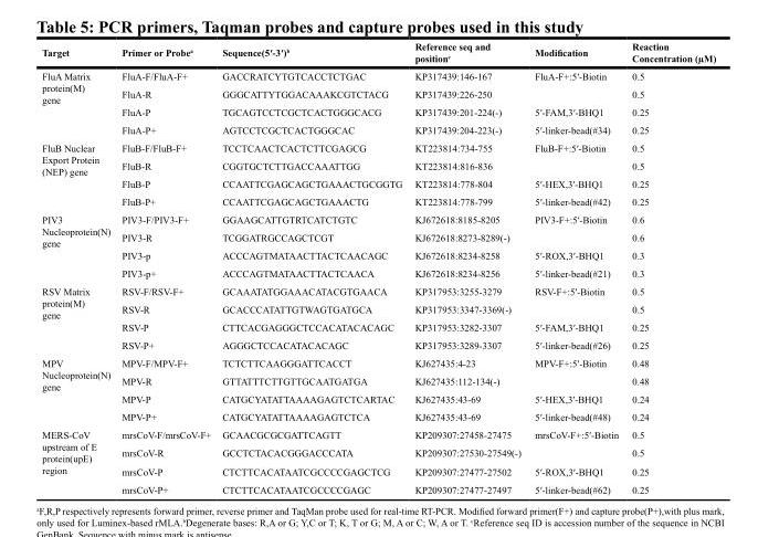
<table><thead><tr><td>Target</td><td>Primer or Probe<sup>a</sup></td><td>Sequence(5′-3′)<sup>b</sup></td><td>Reference seq and position<sup>c</sup></td><td>Modification</td><td>Reaction Concentration (µM)</td></tr></thead><tbody><tr><td rowspan="4">FluA Matrix protein(M) gene</td><td>FluA-F/FluA-F+</td><td>GACCRATCYTGTCACCTCTGAC</td><td>KP317439:146-167</td><td>FluA-F+:5′-Biotin</td><td>0.5</td></tr><tr><td>FluA-R</td><td>GGGCATTYTGGACAAAKCGTCTACG</td><td>KP317439:226-250</td><td></td><td>0.5</td></tr><tr><td>FluA-P</td><td>TGCAGTCCTCGCTCACTGGGCACG</td><td>KP317439:201-224(-)</td><td>5′-FAM,3′-BHQ1</td><td>0.25</td></tr><tr><td>FluA-P+</td><td>AGTCCTCGCTCACTGGGCAC</td><td>KP317439:204-223(-)</td><td>5′-linker-bead(#34)</td><td>0.25</td></tr><tr><td rowspan="4">FluB Nuclear Export Protein (NEP) gene</td><td>FluB-F/FluB-F+</td><td>TCCTCAACTCACTCTTCGAGCG</td><td>KT223814:734-755</td><td>FluB-F+:5′-Biotin</td><td>0.5</td></tr><tr><td>FluB-R</td><td>CGGTGCTCTTGACCAAATTGG</td><td>KT223814:816-836</td><td></td><td>0.5</td></tr><tr><td>FluB-P</td><td>CCAATTCGAGCAGCTGAAACTGCGGTG</td><td>KT223814:778-804</td><td>5′-HEX,3′-BHQ1</td><td>0.25</td></tr><tr><td>FluB-P+</td><td>CCAATTCGAGCAGCTGAAACTG</td><td>KT223814:778-799</td><td>5′-linker-bead(#42)</td><td>0.25</td></tr><tr><td rowspan="4">PIV3 Nucleoprotein(N) gene</td><td>PIV3-F/PIV3-F+</td><td>GGAAGCATTGTRTCATCTGTC</td><td>KJ672618:8185-8205</td><td>PIV3-F+:5′-Biotin</td><td>0.6</td></tr><tr><td>PIV3-R</td><td>TCGGATRGCCAGCTCGT</td><td>KJ672618:8273-8289(-)</td><td></td><td>0.6</td></tr><tr><td>PIV3-p</td><td>ACCCAGTMATAACTTACTCAACAGC</td><td>KJ672618:8234-8258</td><td>5′-ROX,3′-BHQ1</td><td>0.3</td></tr><tr><td>PIV3-p+</td><td>ACCCAGTMATAACTTACTCAACA</td><td>KJ672618:8234-8256</td><td>5′-linker-bead(#21)</td><td>0.3</td></tr><tr><td rowspan="4">RSV Matrix protein(M) gene</td><td>RSV-F/RSV-F+</td><td>GCAAATATGGAAACATACGTGAACA</td><td>KP317953:3255-3279</td><td>RSV-F+:5′-Biotin</td><td>0.5</td></tr><tr><td>RSV-R</td><td>GCACCCATATTGTWAGTGATGCA</td><td>KP317953:3347-3369(-)</td><td></td><td>0.5</td></tr><tr><td>RSV-P</td><td>CTTCACGAGGGCTCCACATACACAGC</td><td>KP317953:3282-3307</td><td>5′-FAM,3′-BHQ1</td><td>0.25</td></tr><tr><td>RSV-P+</td><td>AGGGCTCCACATACACAGC</td><td>KP317953:3289-3307</td><td>5′-linker-bead(#26)</td><td>0.25</td></tr><tr><td rowspan="4">MPV Nucleoprotein(N) gene</td><td>MPV-F/MPV-F+</td><td>TCTCTTCAAGGGATTCACCT</td><td>KJ627435:4-23</td><td>MPV-F+:5′-Biotin</td><td>0.48</td></tr><tr><td>MPV-R</td><td>GTTATTTCTTGTTGCAATGATGA</td><td>KJ627435:112-134(-)</td><td></td><td>0.48</td></tr><tr><td>MPV-P</td><td>CATGCYATATTAAAAGAGTCTCARTAC</td><td>KJ627435:43-69</td><td>5′-HEX,3′-BHQ1</td><td>0.24</td></tr><tr><td>MPV-P+</td><td>CATGCYATATTAAAAGAGTCTCA</td><td>KJ627435:43-69</td><td>5′-linker-bead(#48)</td><td>0.24</td></tr><tr><td rowspan="4">MERS-CoV upstream of E protein(upE) region</td><td>mrsCoV-F/mrsCoV-F+</td><td>GCAACGCGCGATTCAGTT</td><td>KP209307:27458-27475</td><td>mrsCoV-F+:5′-Biotin</td><td>0.5</td></tr><tr><td>mrsCoV-R</td><td>GCCTCTACACGGGACCCATA</td><td>KP209307:27530-27549(-)</td><td></td><td>0.5</td></tr><tr><td>mrsCoV-P</td><td>CTCTTCACATAATCGCCCCGAGCTCG</td><td>KP209307:27477-27502</td><td>5′-ROX,3′-BHQ1</td><td>0.25</td></tr><tr><td>mrsCoV-P+</td><td>CTCTTCACATAATCGCCCCGAGC</td><td>KP209307:27477-27497</td><td>5′-linker-bead(#62)</td><td>0.25</td></tr></tbody></table>